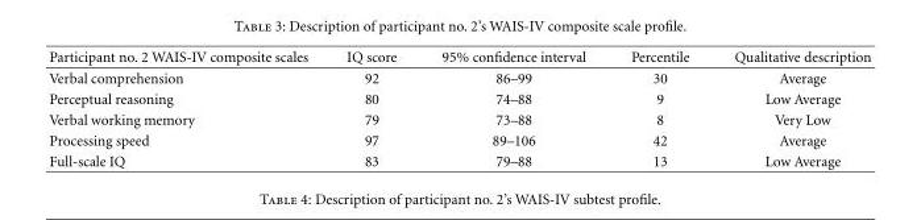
<table><thead><tr><td>Participant no. 2 WAIS-IV composite scales</td><td>IQ score</td><td>95% confidence interval</td><td>Percentile</td><td>Qualitative description</td></tr></thead><tbody><tr><td>Verbal comprehension</td><td>92</td><td>86–99</td><td>30</td><td>Average</td></tr><tr><td>Perceptual reasoning</td><td>80</td><td>74–88</td><td>9</td><td>Low Average</td></tr><tr><td>Verbal working memory</td><td>79</td><td>73–88</td><td>8</td><td>Very Low</td></tr><tr><td>Processing speed</td><td>97</td><td>89–106</td><td>42</td><td>Average</td></tr><tr><td>Full-scale IQ</td><td>83</td><td>79–88</td><td>13</td><td>Low Average</td></tr></tbody></table>